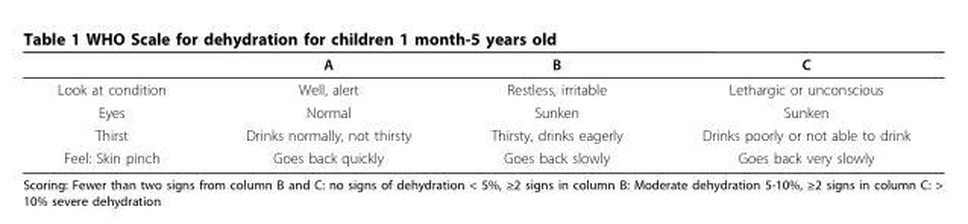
<table><thead><tr><td></td><td>A</td><td>B</td><td>C</td></tr></thead><tbody><tr><td>Look at condition</td><td>Well, alert</td><td>Restless, irritable</td><td>Lethargic or unconscious</td></tr><tr><td>Eyes</td><td>Normal</td><td>Sunken</td><td>Sunken</td></tr><tr><td>Thirst</td><td>Drinks normally, not thirsty</td><td>Thirsty, drinks eagerly</td><td>Drinks poorly or not able to drink</td></tr><tr><td>Feel: Skin pinch</td><td>Goes back quickly</td><td>Goes back slowly</td><td>Goes back very slowly</td></tr></tbody></table>